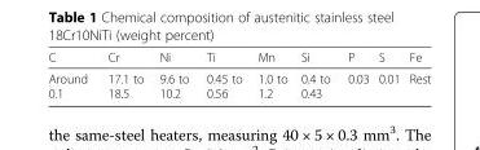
<table><thead><tr><td>С</td><td>Cr</td><td>Ni</td><td>Ti</td><td>Mn</td><td>Si</td><td>P</td><td>S</td><td>Fe</td></tr></thead><tbody><tr><td>Around 0.1</td><td>17.1 to 18.5</td><td>9.6 to 10.2</td><td>0.45 to 0.56</td><td>1.0 to 1.2</td><td>0.4 to 0.43</td><td>0.03</td><td>0.01</td><td>Rest</td></tr></tbody></table>